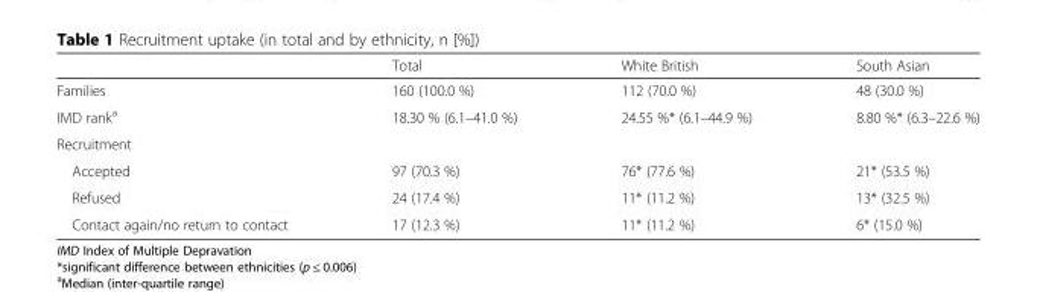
<table><thead><tr><td></td><td>Total</td><td>White British</td><td>South Asian</td></tr></thead><tbody><tr><td>Families</td><td>160 (100.0 %)</td><td>112 (70.0 %)</td><td>48 (30.0 %)</td></tr><tr><td>IMD rank<sup>a</sup></td><td>18.30 % (6.1–41.0 %)</td><td>24.55 %* (6.1–44.9 %)</td><td>8.80 %* (6.3–22.6 %)</td></tr><tr><td colspan="4">Recruitment</td></tr><tr><td>Accepted</td><td>97 (70.3 %)</td><td>76* (77.6 %)</td><td>21* (53.5 %)</td></tr><tr><td>Refused</td><td>24 (17.4 %)</td><td>11* (11.2 %)</td><td>13* (32.5 %)</td></tr><tr><td>Contact again/no return to contact</td><td>17 (12.3 %)</td><td>11* (11.2 %)</td><td>6* (15.0 %)</td></tr></tbody></table>